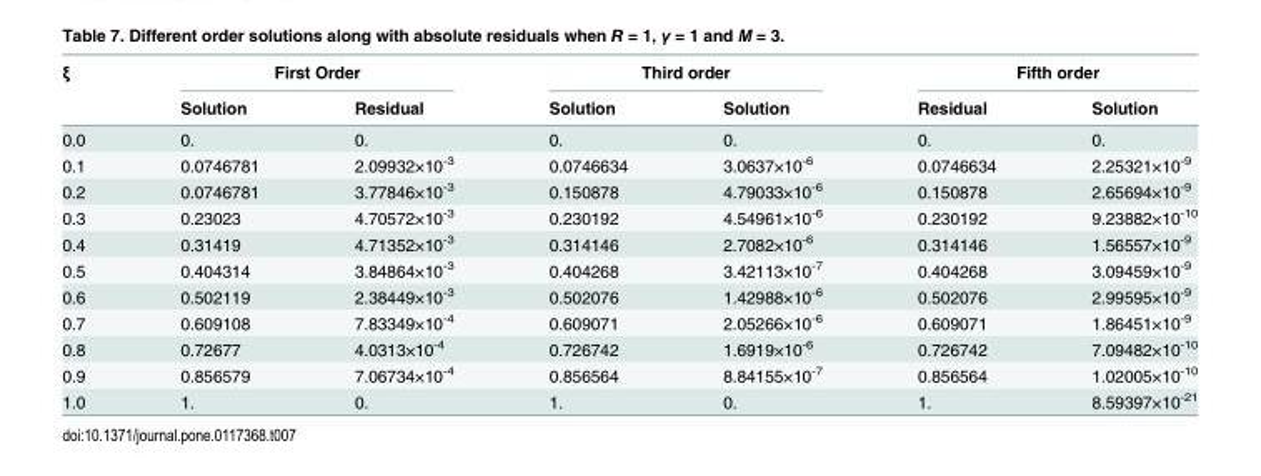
<table><thead><tr><td rowspan="2">ξ</td><td colspan="2">First Order</td><td colspan="2">Third order</td><td colspan="2">Fifth order</td></tr><tr><td>Solution</td><td>Residual</td><td>Solution</td><td>Solution</td><td>Residual</td><td>Solution</td></tr></thead><tbody><tr><td>0.0</td><td>0.</td><td>0.</td><td>0.</td><td>0.</td><td>0.</td><td>0.</td></tr><tr><td>0.1</td><td>0.0746781</td><td>2.09932×10<sup>-3</sup></td><td>0.0746634</td><td>3.0637×10<sup>-6</sup></td><td>0.0746634</td><td>2.25321×10<sup>-9</sup></td></tr><tr><td>0.2</td><td>0.0746781</td><td>3.77846×10<sup>-3</sup></td><td>0.150878</td><td>4.79033×10<sup>-6</sup></td><td>0.150878</td><td>2.65694×10<sup>-9</sup></td></tr><tr><td>0.3</td><td>0.23023</td><td>4.70572×10<sup>-3</sup></td><td>0.230192</td><td>4.54961×10<sup>-6</sup></td><td>0.230192</td><td>9.23882×10<sup>-10</sup></td></tr><tr><td>0.4</td><td>0.31419</td><td>4.71352×10<sup>-3</sup></td><td>0.314146</td><td>2.7082×10<sup>-6</sup></td><td>0.314146</td><td>1.56557×10<sup>-9</sup></td></tr><tr><td>0.5</td><td>0.404314</td><td>3.84864×10<sup>-3</sup></td><td>0.404268</td><td>3.42113×10<sup>-7</sup></td><td>0.404268</td><td>3.09459×10<sup>-9</sup></td></tr><tr><td>0.6</td><td>0.502119</td><td>2.38449×10<sup>-3</sup></td><td>0.502076</td><td>1.42988×10<sup>-6</sup></td><td>0.502076</td><td>2.99595×10<sup>-9</sup></td></tr><tr><td>0.7</td><td>0.609108</td><td>7.83349×10<sup>-4</sup></td><td>0.609071</td><td>2.05266×10<sup>-6</sup></td><td>0.609071</td><td>1.86451×10<sup>-9</sup></td></tr><tr><td>0.8</td><td>0.72677</td><td>4.0313×10<sup>-4</sup></td><td>0.726742</td><td>1.6919×10<sup>-6</sup></td><td>0.726742</td><td>7.09482×10<sup>-10</sup></td></tr><tr><td>0.9</td><td>0.856579</td><td>7.06734×10<sup>-4</sup></td><td>0.856564</td><td>8.84155×10<sup>-7</sup></td><td>0.856564</td><td>1.02005×10<sup>-10</sup></td></tr><tr><td>1.0</td><td>1.</td><td>0.</td><td>1.</td><td>0.</td><td>1.</td><td>8.59397×10<sup>-21</sup></td></tr></tbody></table>